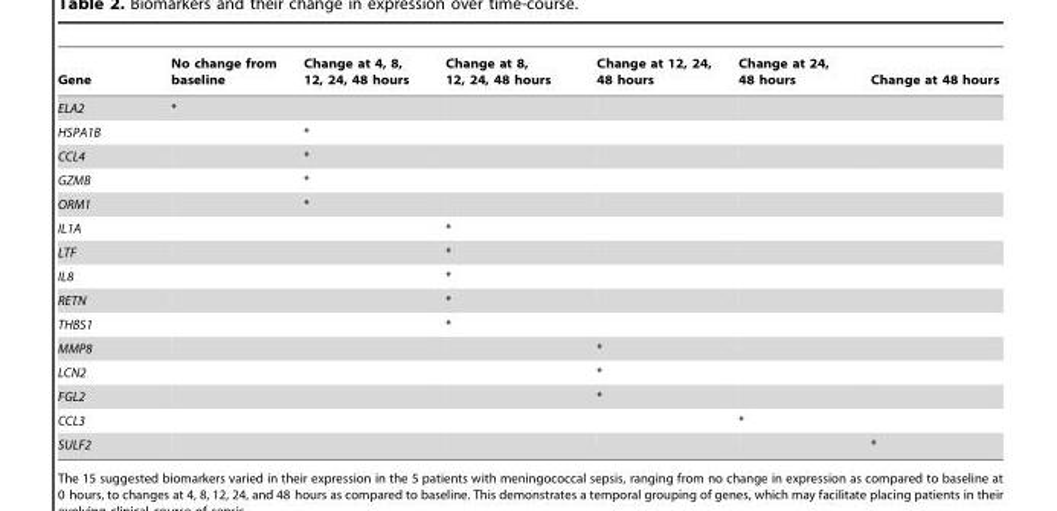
<table><thead><tr><td>Gene</td><td>No change from baseline</td><td>Change at 4, 8, 12, 24, 48 hours</td><td>Change at 8, 12, 24, 48 hours</td><td>Change at 12, 24, 48 hours</td><td>Change at 24, 48 hours</td><td>Change at 48 hours</td></tr></thead><tbody><tr><td>ELA2</td><td>*</td><td></td><td></td><td></td><td></td><td></td></tr><tr><td>HSPA1B</td><td></td><td>*</td><td></td><td></td><td></td><td></td></tr><tr><td>CCL4</td><td></td><td>*</td><td></td><td></td><td></td><td></td></tr><tr><td>GZMB</td><td></td><td>*</td><td></td><td></td><td></td><td></td></tr><tr><td>ORM1</td><td></td><td>*</td><td></td><td></td><td></td><td></td></tr><tr><td>IL1A</td><td></td><td></td><td>*</td><td></td><td></td><td></td></tr><tr><td>LTF</td><td></td><td></td><td>*</td><td></td><td></td><td></td></tr><tr><td>IL8</td><td></td><td></td><td>*</td><td></td><td></td><td></td></tr><tr><td>RETN</td><td></td><td></td><td>*</td><td></td><td></td><td></td></tr><tr><td>THBS1</td><td></td><td></td><td>*</td><td></td><td></td><td></td></tr><tr><td>MMP8</td><td></td><td></td><td></td><td>*</td><td></td><td></td></tr><tr><td>LCN2</td><td></td><td></td><td></td><td>*</td><td></td><td></td></tr><tr><td>FGL2</td><td></td><td></td><td></td><td>*</td><td></td><td></td></tr><tr><td>CCL3</td><td></td><td></td><td></td><td></td><td>*</td><td></td></tr><tr><td>SULF2</td><td></td><td></td><td></td><td></td><td></td><td>*</td></tr></tbody></table>